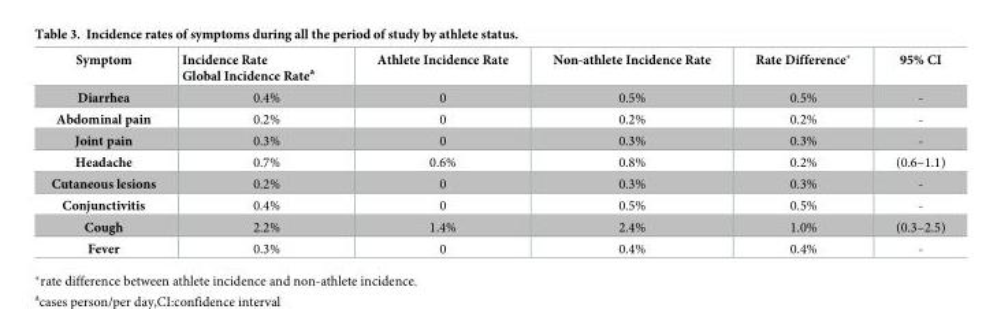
<table><thead><tr><td>Symptom</td><td>Incidence Rate Global Incidence Rate<sup>a</sup></td><td>Athlete Incidence Rate</td><td>Non-athlete Incidence Rate</td><td>Rate Difference*</td><td>95% CI</td></tr></thead><tbody><tr><td>Diarrhea</td><td>0.4%</td><td>0</td><td>0.5%</td><td>0.5%</td><td>-</td></tr><tr><td>Abdominal pain</td><td>0.2%</td><td>0</td><td>0.2%</td><td>0.2%</td><td>-</td></tr><tr><td>Joint pain</td><td>0.3%</td><td>0</td><td>0.3%</td><td>0.3%</td><td>-</td></tr><tr><td>Headache</td><td>0.7%</td><td>0.6%</td><td>0.8%</td><td>0.2%</td><td>(0.6–1.1)</td></tr><tr><td>Cutaneous lesions</td><td>0.2%</td><td>0</td><td>0.3%</td><td>0.3%</td><td>-</td></tr><tr><td>Conjunctivitis</td><td>0.4%</td><td>0</td><td>0.5%</td><td>0.5%</td><td>-</td></tr><tr><td>Cough</td><td>2.2%</td><td>1.4%</td><td>2.4%</td><td>1.0%</td><td>(0.3–2.5)</td></tr><tr><td>Fever</td><td>0.3%</td><td>0</td><td>0.4%</td><td>0.4%</td><td>-</td></tr></tbody></table>